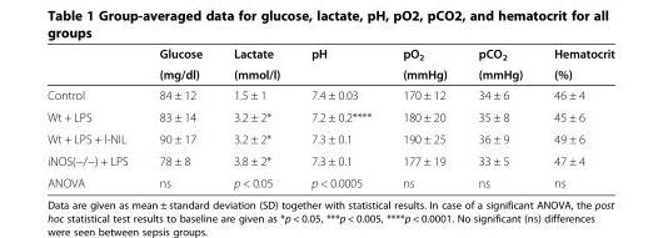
<table><thead><tr><td rowspan="2"></td><td rowspan="2">Glucose (mg/dl)</td><td rowspan="2">Lactate (mmol/l)</td><td rowspan="2">pH</td><td rowspan="2">pO<sub>2</sub> (mmHg)</td><td rowspan="2">pCO<sub>2</sub> (mmHg)</td><td rowspan="2">Hematocrit (%)</td></tr><tr></tr></thead><tbody><tr><td>Control</td><td>84 ± 12</td><td>1.5 ± 1</td><td>7.4 ± 0.03</td><td>170 ± 12</td><td>34 ± 6</td><td>46 ± 4</td></tr><tr><td>Wt + LPS</td><td>83 ± 14</td><td>3.2 ± 2*</td><td>7.2 ± 0.2****</td><td>180 ± 20</td><td>35 ± 8</td><td>45 ± 6</td></tr><tr><td>Wt + LPS + l-NIL</td><td>90 ± 17</td><td>3.2 ± 2*</td><td>7.3 ± 0.1</td><td>190 ± 25</td><td>36 ± 9</td><td>49 ± 6</td></tr><tr><td>iNOS(−/−) + LPS</td><td>78 ± 8</td><td>3.8 ± 2*</td><td>7.3 ± 0.1</td><td>177 ± 19</td><td>33 ± 5</td><td>47 ± 4</td></tr><tr><td>ANOVA</td><td>ns</td><td>p &lt; 0.05</td><td>p &lt; 0.0005</td><td>ns</td><td>ns</td><td>ns</td></tr></tbody></table>